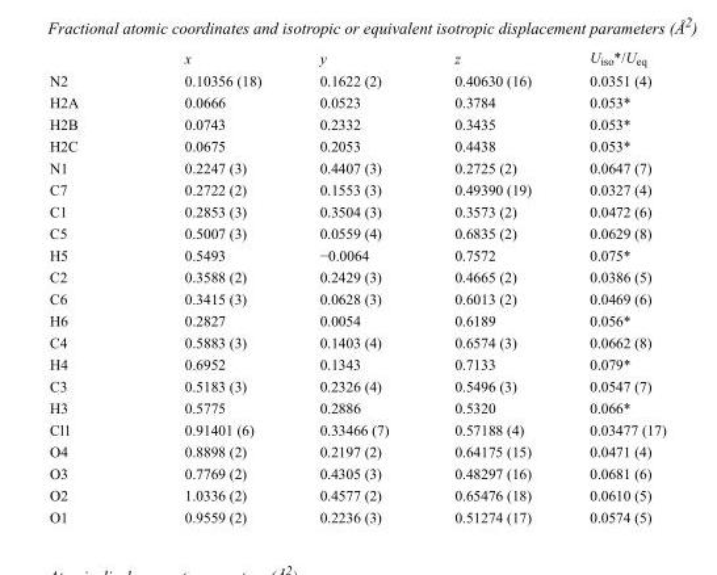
<table><thead><tr><td></td><td>x</td><td>y</td><td>z</td><td>U<sub>iso</sub>*/U<sub>eq</sub></td></tr></thead><tbody><tr><td>N2</td><td>0.10356 (18)</td><td>0.1622 (2)</td><td>0.40630 (16)</td><td>0.0351 (4)</td></tr><tr><td>H2A</td><td>0.0666</td><td>0.0523</td><td>0.3784</td><td>0.053*</td></tr><tr><td>H2B</td><td>0.0743</td><td>0.2332</td><td>0.3435</td><td>0.053*</td></tr><tr><td>H2C</td><td>0.0675</td><td>0.2053</td><td>0.4438</td><td>0.053*</td></tr><tr><td>N1</td><td>0.2247 (3)</td><td>0.4407 (3)</td><td>0.2725 (2)</td><td>0.0647 (7)</td></tr><tr><td>C7</td><td>0.2722 (2)</td><td>0.1553 (3)</td><td>0.49390 (19)</td><td>0.0327 (4)</td></tr><tr><td>C1</td><td>0.2853 (3)</td><td>0.3504 (3)</td><td>0.3573 (2)</td><td>0.0472 (6)</td></tr><tr><td>C5</td><td>0.5007 (3)</td><td>0.0559 (4)</td><td>0.6835 (2)</td><td>0.0629 (8)</td></tr><tr><td>H5</td><td>0.5493</td><td>−0.0064</td><td>0.7572</td><td>0.075*</td></tr><tr><td>C2</td><td>0.3588 (2)</td><td>0.2429 (3)</td><td>0.4665 (2)</td><td>0.0386 (5)</td></tr><tr><td>C6</td><td>0.3415 (3)</td><td>0.0628 (3)</td><td>0.6013 (2)</td><td>0.0469 (6)</td></tr><tr><td>H6</td><td>0.2827</td><td>0.0054</td><td>0.6189</td><td>0.056*</td></tr><tr><td>C4</td><td>0.5883 (3)</td><td>0.1403 (4)</td><td>0.6574 (3)</td><td>0.0662 (8)</td></tr><tr><td>H4</td><td>0.6952</td><td>0.1343</td><td>0.7133</td><td>0.079*</td></tr><tr><td>C3</td><td>0.5183 (3)</td><td>0.2326 (4)</td><td>0.5496 (3)</td><td>0.0547 (7)</td></tr><tr><td>H3</td><td>0.5775</td><td>0.2886</td><td>0.5320</td><td>0.066*</td></tr><tr><td>Cl1</td><td>0.91401 (6)</td><td>0.33466 (7)</td><td>0.57188 (4)</td><td>0.03477 (17)</td></tr><tr><td>O4</td><td>0.8898 (2)</td><td>0.2197 (2)</td><td>0.64175 (15)</td><td>0.0471 (4)</td></tr><tr><td>O3</td><td>0.7769 (2)</td><td>0.4305 (3)</td><td>0.48297 (16)</td><td>0.0681 (6)</td></tr><tr><td>O2</td><td>1.0336 (2)</td><td>0.4577 (2)</td><td>0.65476 (18)</td><td>0.0610 (5)</td></tr><tr><td>O1</td><td>0.9559 (2)</td><td>0.2236 (3)</td><td>0.51274 (17)</td><td>0.0574 (5)</td></tr></tbody></table>